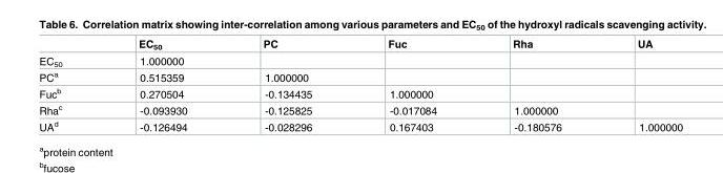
<table><thead><tr><td></td><td>EC<sub>50</sub></td><td>PC</td><td>Fuc</td><td>Rha</td><td>UA</td></tr></thead><tbody><tr><td>EC<sub>50</sub></td><td>1.000000</td><td></td><td></td><td></td><td></td></tr><tr><td>PC<sup>a</sup></td><td>0.515359</td><td>1.000000</td><td></td><td></td><td></td></tr><tr><td>Fuc<sup>b</sup></td><td>0.270504</td><td>-0.134435</td><td>1.000000</td><td></td><td></td></tr><tr><td>Rha<sup>c</sup></td><td>-0.093930</td><td>-0.125825</td><td>-0.017084</td><td>1.000000</td><td></td></tr><tr><td>UA<sup>d</sup></td><td>-0.126494</td><td>-0.028296</td><td>0.167403</td><td>-0.180576</td><td>1.000000</td></tr></tbody></table>